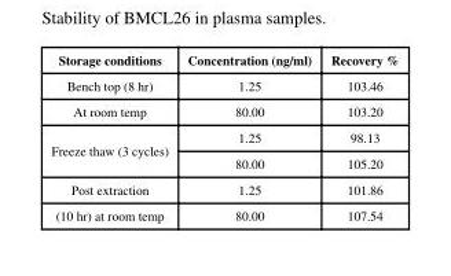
<table><thead><tr><td>Storage conditions</td><td>Concentration (ng/ml)</td><td>Recovery %</td></tr></thead><tbody><tr><td>Bench top (8 hr)</td><td>1.25</td><td>103.46</td></tr><tr><td>At room temp</td><td>80.00</td><td>103.20</td></tr><tr><td rowspan="2">Freeze thaw (3 cycles)</td><td>1.25</td><td>98.13</td></tr><tr><td>80.00</td><td>105.20</td></tr><tr><td>Post extraction</td><td>1.25</td><td>101.86</td></tr><tr><td>(10 hr) at room temp</td><td>80.00</td><td>107.54</td></tr></tbody></table>